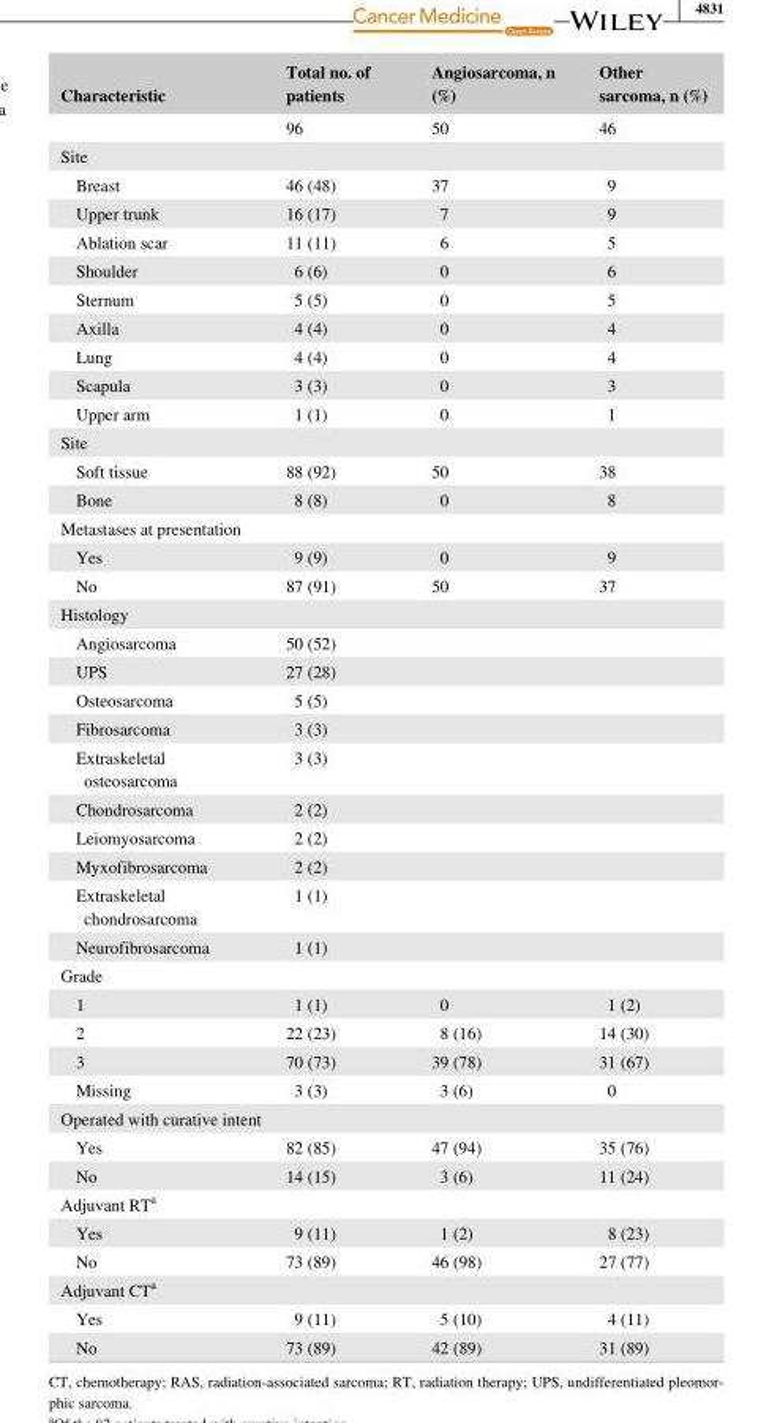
<table><thead><tr><td>Characteristic</td><td>Total no. of patients</td><td>Angiosarcoma, n (%)</td><td>Other sarcoma, n (%)</td></tr></thead><tbody><tr><td></td><td>96</td><td>50</td><td>46</td></tr><tr><td colspan="4">Site</td></tr><tr><td>Breast</td><td>46 (48)</td><td>37</td><td>9</td></tr><tr><td>Upper trunk</td><td>16 (17)</td><td>7</td><td>9</td></tr><tr><td>Ablation scar</td><td>11 (11)</td><td>6</td><td>5</td></tr><tr><td>Shoulder</td><td>6 (6)</td><td>0</td><td>6</td></tr><tr><td>Sternum</td><td>5 (5)</td><td>0</td><td>5</td></tr><tr><td>Axilla</td><td>4 (4)</td><td>0</td><td>4</td></tr><tr><td>Lung</td><td>4 (4)</td><td>0</td><td>4</td></tr><tr><td>Scapula</td><td>3 (3)</td><td>0</td><td>3</td></tr><tr><td>Upper arm</td><td>1 (1)</td><td>0</td><td>1</td></tr><tr><td colspan="4">Site</td></tr><tr><td>Soft tissue</td><td>88 (92)</td><td>50</td><td>38</td></tr><tr><td>Bone</td><td>8 (8)</td><td>0</td><td>8</td></tr><tr><td colspan="4">Metastases at presentation</td></tr><tr><td>Yes</td><td>9 (9)</td><td>0</td><td>9</td></tr><tr><td>No</td><td>87 (91)</td><td>50</td><td>37</td></tr><tr><td colspan="4">Histology</td></tr><tr><td>Angiosarcoma</td><td>50 (52)</td><td></td><td></td></tr><tr><td>UPS</td><td>27 (28)</td><td></td><td></td></tr><tr><td>Osteosarcoma</td><td>5 (5)</td><td></td><td></td></tr><tr><td>Fibrosarcoma</td><td>3 (3)</td><td></td><td></td></tr><tr><td>Extraskeletal osteosarcoma</td><td>3 (3)</td><td></td><td></td></tr><tr><td>Chondrosarcoma</td><td>2 (2)</td><td></td><td></td></tr><tr><td>Leiomyosarcoma</td><td>2 (2)</td><td></td><td></td></tr><tr><td>Myxofibrosarcoma</td><td>2 (2)</td><td></td><td></td></tr><tr><td>Extraskeletal chondrosarcoma</td><td>1 (1)</td><td></td><td></td></tr><tr><td>Neurofibrosarcoma</td><td>1 (1)</td><td></td><td></td></tr><tr><td colspan="4">Grade</td></tr><tr><td>1</td><td>1 (1)</td><td>0</td><td>1 (2)</td></tr><tr><td>2</td><td>22 (23)</td><td>8 (16)</td><td>14 (30)</td></tr><tr><td>3</td><td>70 (73)</td><td>39 (78)</td><td>31 (67)</td></tr><tr><td>Missing</td><td>3 (3)</td><td>3 (6)</td><td>0</td></tr><tr><td colspan="4">Operated with curative intent</td></tr><tr><td>Yes</td><td>82 (85)</td><td>47 (94)</td><td>35 (76)</td></tr><tr><td>No</td><td>14 (15)</td><td>3 (6)</td><td>11 (24)</td></tr><tr><td colspan="4">Adjuvant RT<sup>a</sup></td></tr><tr><td>Yes</td><td>9 (11)</td><td>1 (2)</td><td>8 (23)</td></tr><tr><td>No</td><td>73 (89)</td><td>46 (98)</td><td>27 (77)</td></tr><tr><td colspan="4">Adjuvant CT<sup>a</sup></td></tr><tr><td>Yes</td><td>9 (11)</td><td>5 (10)</td><td>4 (11)</td></tr><tr><td>No</td><td>73 (89)</td><td>42 (89)</td><td>31 (89)</td></tr></tbody></table>